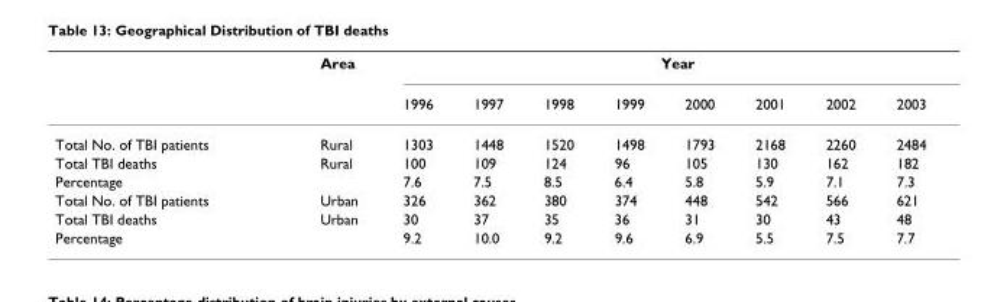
<table><thead><tr><td rowspan="2"></td><td rowspan="2">Area</td><td colspan="8">Year</td></tr><tr><td>1996</td><td>1997</td><td>1998</td><td>1999</td><td>2000</td><td>2001</td><td>2002</td><td>2003</td></tr></thead><tbody><tr><td>Total No. of TBI patients</td><td>Rural</td><td>1303</td><td>1448</td><td>1520</td><td>1498</td><td>1793</td><td>2168</td><td>2260</td><td>2484</td></tr><tr><td>Total TBI deaths</td><td>Rural</td><td>100</td><td>109</td><td>124</td><td>96</td><td>105</td><td>130</td><td>162</td><td>182</td></tr><tr><td>Percentage</td><td></td><td>7.6</td><td>7.5</td><td>8.5</td><td>6.4</td><td>5.8</td><td>5.9</td><td>7.1</td><td>7.3</td></tr><tr><td>Total No. of TBI patients</td><td>Urban</td><td>326</td><td>362</td><td>380</td><td>374</td><td>448</td><td>542</td><td>566</td><td>621</td></tr><tr><td>Total TBI deaths</td><td>Urban</td><td>30</td><td>37</td><td>35</td><td>36</td><td>31</td><td>30</td><td>43</td><td>48</td></tr><tr><td>Percentage</td><td></td><td>9.2</td><td>10.0</td><td>9.2</td><td>9.6</td><td>6.9</td><td>5.5</td><td>7.5</td><td>7.7</td></tr></tbody></table>